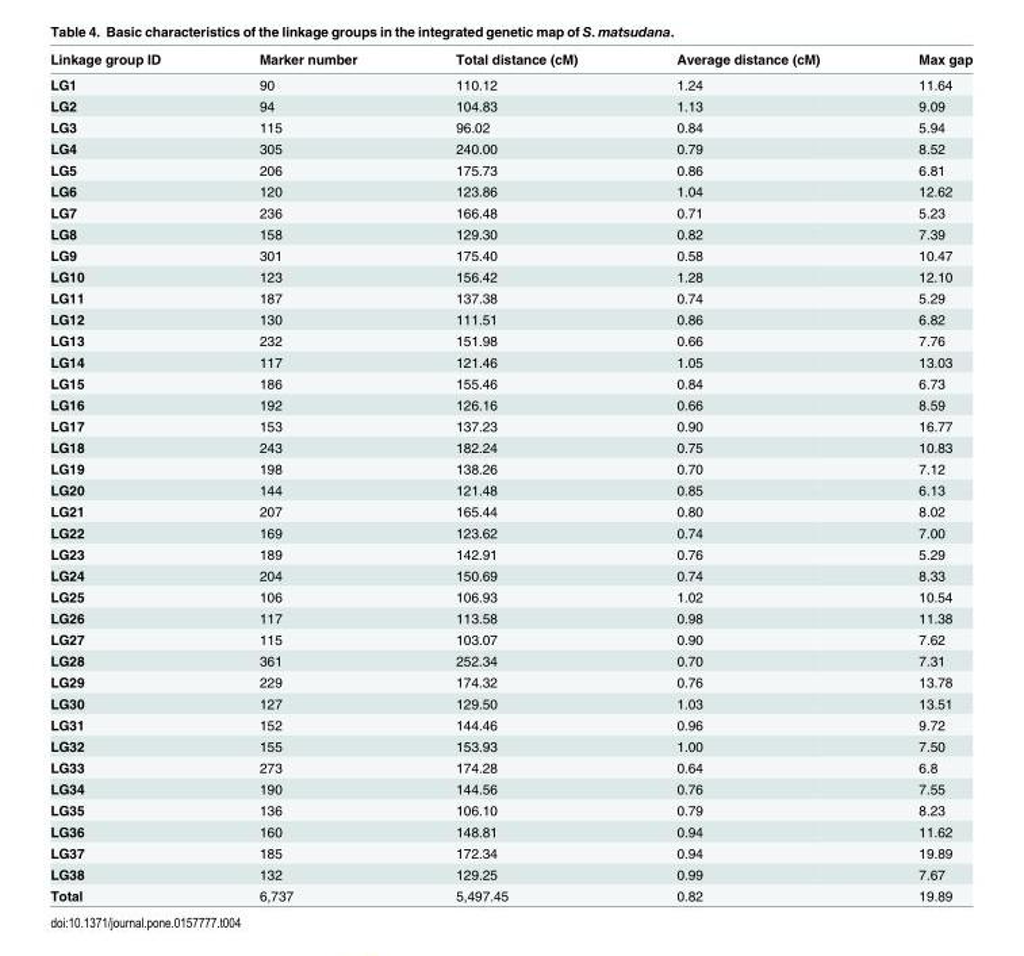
<table><thead><tr><td>Linkage group ID</td><td>Marker number</td><td>Total distance (cM)</td><td>Average distance (cM)</td><td>Max gap</td></tr></thead><tbody><tr><td>LG1</td><td>90</td><td>110.12</td><td>1.24</td><td>11.64</td></tr><tr><td>LG2</td><td>94</td><td>104.83</td><td>1.13</td><td>9.09</td></tr><tr><td>LG3</td><td>115</td><td>96.02</td><td>0.84</td><td>5.94</td></tr><tr><td>LG4</td><td>305</td><td>240.00</td><td>0.79</td><td>8.52</td></tr><tr><td>LG5</td><td>206</td><td>175.73</td><td>0.86</td><td>6.81</td></tr><tr><td>LG6</td><td>120</td><td>123.86</td><td>1.04</td><td>12.62</td></tr><tr><td>LG7</td><td>236</td><td>166.48</td><td>0.71</td><td>5.23</td></tr><tr><td>LG8</td><td>158</td><td>129.30</td><td>0.82</td><td>7.39</td></tr><tr><td>LG9</td><td>301</td><td>175.40</td><td>0.58</td><td>10.47</td></tr><tr><td>LG10</td><td>123</td><td>156.42</td><td>1.28</td><td>12.10</td></tr><tr><td>LG11</td><td>187</td><td>137.38</td><td>0.74</td><td>5.29</td></tr><tr><td>LG12</td><td>130</td><td>111.51</td><td>0.86</td><td>6.82</td></tr><tr><td>LG13</td><td>232</td><td>151.98</td><td>0.66</td><td>7.76</td></tr><tr><td>LG14</td><td>117</td><td>121.46</td><td>1.05</td><td>13.03</td></tr><tr><td>LG15</td><td>186</td><td>155.46</td><td>0.84</td><td>6.73</td></tr><tr><td>LG16</td><td>192</td><td>126.16</td><td>0.66</td><td>8.59</td></tr><tr><td>LG17</td><td>153</td><td>137.23</td><td>0.90</td><td>16.77</td></tr><tr><td>LG18</td><td>243</td><td>182.24</td><td>0.75</td><td>10.83</td></tr><tr><td>LG19</td><td>198</td><td>138.26</td><td>0.70</td><td>7.12</td></tr><tr><td>LG20</td><td>144</td><td>121.48</td><td>0.85</td><td>6.13</td></tr><tr><td>LG21</td><td>207</td><td>165.44</td><td>0.80</td><td>8.02</td></tr><tr><td>LG22</td><td>169</td><td>123.62</td><td>0.74</td><td>7.00</td></tr><tr><td>LG23</td><td>189</td><td>142.91</td><td>0.76</td><td>5.29</td></tr><tr><td>LG24</td><td>204</td><td>150.69</td><td>0.74</td><td>8.33</td></tr><tr><td>LG25</td><td>106</td><td>106.93</td><td>1.02</td><td>10.54</td></tr><tr><td>LG26</td><td>117</td><td>113.58</td><td>0.98</td><td>11.38</td></tr><tr><td>LG27</td><td>115</td><td>103.07</td><td>0.90</td><td>7.62</td></tr><tr><td>LG28</td><td>361</td><td>252.34</td><td>0.70</td><td>7.31</td></tr><tr><td>LG29</td><td>229</td><td>174.32</td><td>0.76</td><td>13.78</td></tr><tr><td>LG30</td><td>127</td><td>129.50</td><td>1.03</td><td>13.51</td></tr><tr><td>LG31</td><td>152</td><td>144.46</td><td>0.96</td><td>9.72</td></tr><tr><td>LG32</td><td>155</td><td>153.93</td><td>1.00</td><td>7.50</td></tr><tr><td>LG33</td><td>273</td><td>174.28</td><td>0.64</td><td>6.8</td></tr><tr><td>LG34</td><td>190</td><td>144.56</td><td>0.76</td><td>7.55</td></tr><tr><td>LG35</td><td>136</td><td>106.10</td><td>0.79</td><td>8.23</td></tr><tr><td>LG36</td><td>160</td><td>148.81</td><td>0.94</td><td>11.62</td></tr><tr><td>LG37</td><td>185</td><td>172.34</td><td>0.94</td><td>19.89</td></tr><tr><td>LG38</td><td>132</td><td>129.25</td><td>0.99</td><td>7.67</td></tr><tr><td>Total</td><td>6,737</td><td>5,497.45</td><td>0.82</td><td>19.89</td></tr></tbody></table>